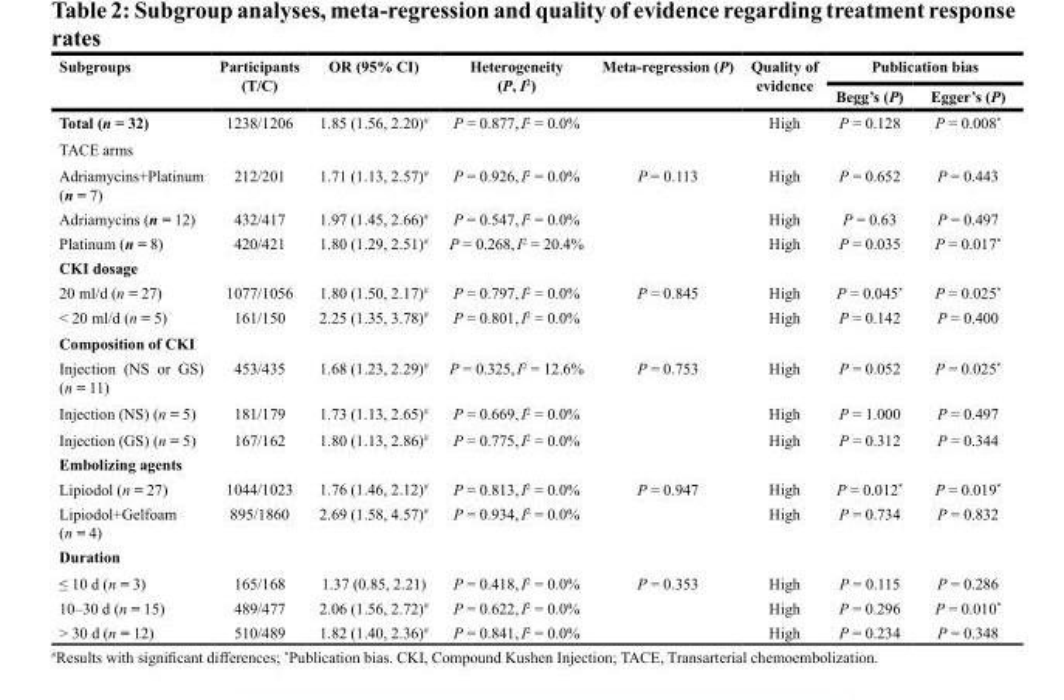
<table><thead><tr><td rowspan="2">Subgroups</td><td rowspan="2">Participants (T/C)</td><td rowspan="2">OR (95% CI)</td><td rowspan="2">Heterogeneity (P, I<sup>2</sup>)</td><td rowspan="2">Meta-regression (P)</td><td rowspan="2">Quality of evidence</td><td colspan="2">Publication bias</td></tr><tr><td>Begg’s (P)</td><td>Egger’s (P)</td></tr></thead><tbody><tr><td>Total (n = 32)</td><td>1238/1206</td><td>1.85 (1.56, 2.20)<sup>#</sup></td><td>P = 0.877, I<sup>2</sup> = 0.0%</td><td></td><td>High</td><td>P = 0.128</td><td>P = 0.008*</td></tr><tr><td colspan="8">TACE arms</td></tr><tr><td>Adriamycins+Platinum (n = 7)</td><td>212/201</td><td>1.71 (1.13, 2.57)<sup>#</sup></td><td>P = 0.926, I<sup>2</sup> = 0.0%</td><td rowspan="3">P = 0.113</td><td>High</td><td>P = 0.652</td><td>P = 0.443</td></tr><tr><td>Adriamycins (n = 12)</td><td>432/417</td><td>1.97 (1.45, 2.66)<sup>#</sup></td><td>P = 0.547, I<sup>2</sup> = 0.0%</td><td>High</td><td>P = 0.63</td><td>P = 0.497</td></tr><tr><td>Platinum (n = 8)</td><td>420/421</td><td>1.80 (1.29, 2.51)<sup>#</sup></td><td>P = 0.268, I<sup>2</sup> = 20.4%</td><td>High</td><td>P = 0.035</td><td>P = 0.017*</td></tr><tr><td colspan="8">CKI dosage</td></tr><tr><td>20 ml/d (n = 27)</td><td>1077/1056</td><td>1.80 (1.50, 2.17)<sup>#</sup></td><td>P = 0.797, I<sup>2</sup> = 0.0%</td><td rowspan="2">P = 0.845</td><td>High</td><td>P = 0.045*</td><td>P = 0.025*</td></tr><tr><td>&lt; 20 ml/d (n = 5)</td><td>161/150</td><td>2.25 (1.35, 3.78)<sup>#</sup></td><td>P = 0.801, I<sup>2</sup> = 0.0%</td><td>High</td><td>P = 0.142</td><td>P = 0.400</td></tr><tr><td colspan="8">Composition of CKI</td></tr><tr><td>Injection (NS or GS) (n = 11)</td><td>453/435</td><td>1.68 (1.23, 2.29)<sup>#</sup></td><td>P = 0.325, I<sup>2</sup> = 12.6%</td><td rowspan="3">P = 0.753</td><td>High</td><td>P = 0.052</td><td>P = 0.025*</td></tr><tr><td>Injection (NS) (n = 5)</td><td>181/179</td><td>1.73 (1.13, 2.65)<sup>#</sup></td><td>P = 0.669, I<sup>2</sup> = 0.0%</td><td>High</td><td>P = 1.000</td><td>P = 0.497</td></tr><tr><td>Injection (GS) (n = 5)</td><td>167/162</td><td>1.80 (1.13, 2.86)<sup>#</sup></td><td>P = 0.775, I<sup>2</sup> = 0.0%</td><td>High</td><td>P = 0.312</td><td>P = 0.344</td></tr><tr><td colspan="8">Embolizing agents</td></tr><tr><td>Lipiodol (n = 27)</td><td>1044/1023</td><td>1.76 (1.46, 2.12)<sup>#</sup></td><td>P = 0.813, I<sup>2</sup> = 0.0%</td><td rowspan="2">P = 0.947</td><td>High</td><td>P = 0.012*</td><td>P = 0.019*</td></tr><tr><td>Lipiodol+Gelfoam (n = 4)</td><td>895/1860</td><td>2.69 (1.58, 4.57)<sup>#</sup></td><td>P = 0.934, I<sup>2</sup> = 0.0%</td><td>High</td><td>P = 0.734</td><td>P = 0.832</td></tr><tr><td colspan="8">Duration</td></tr><tr><td>≤ 10 d (n = 3)</td><td>165/168</td><td>1.37 (0.85, 2.21)</td><td>P = 0.418, I<sup>2</sup> = 0.0%</td><td rowspan="3">P = 0.353</td><td>High</td><td>P = 0.115</td><td>P = 0.286</td></tr><tr><td>10–30 d (n = 15)</td><td>489/477</td><td>2.06 (1.56, 2.72)<sup>#</sup></td><td>P = 0.622, I<sup>2</sup> = 0.0%</td><td>High</td><td>P = 0.296</td><td>P = 0.010*</td></tr><tr><td>&gt; 30 d (n = 12)</td><td>510/489</td><td>1.82 (1.40, 2.36)<sup>#</sup></td><td>P = 0.841, I<sup>2</sup> = 0.0%</td><td>High</td><td>P = 0.234</td><td>P = 0.348</td></tr></tbody></table>